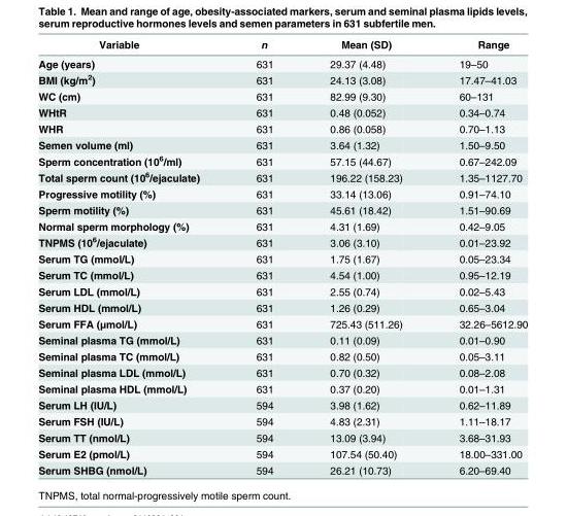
<table><thead><tr><td>Variable</td><td>n</td><td>Mean (SD)</td><td>Range</td></tr></thead><tbody><tr><td>Age (years)</td><td>631</td><td>29.37 (4.48)</td><td>19–50</td></tr><tr><td>BMI (kg/m<sup>2</sup>)</td><td>631</td><td>24.13 (3.08)</td><td>17.47–41.03</td></tr><tr><td>WC (cm)</td><td>631</td><td>82.99 (9.30)</td><td>60–131</td></tr><tr><td>WHtR</td><td>631</td><td>0.48 (0.052)</td><td>0.34–0.74</td></tr><tr><td>WHR</td><td>631</td><td>0.86 (0.058)</td><td>0.70–1.13</td></tr><tr><td>Semen volume (ml)</td><td>631</td><td>3.64 (1.32)</td><td>1.50–9.50</td></tr><tr><td>Sperm concentration (10<sup>6</sup>/ml)</td><td>631</td><td>57.15 (44.67)</td><td>0.67–242.09</td></tr><tr><td>Total sperm count (10<sup>6</sup>/ejaculate)</td><td>631</td><td>196.22 (158.23)</td><td>1.35–1127.70</td></tr><tr><td>Progressive motility (%)</td><td>631</td><td>33.14 (13.06)</td><td>0.91–74.10</td></tr><tr><td>Sperm motility (%)</td><td>631</td><td>45.61 (18.42)</td><td>1.51–90.69</td></tr><tr><td>Normal sperm morphology (%)</td><td>631</td><td>4.31 (1.69)</td><td>0.42–9.05</td></tr><tr><td>TNPMS (10<sup>6</sup>/ejaculate)</td><td>631</td><td>3.06 (3.10)</td><td>0.01–23.92</td></tr><tr><td>Serum TG (mmol/L)</td><td>631</td><td>1.75 (1.67)</td><td>0.05–23.34</td></tr><tr><td>Serum TC (mmol/L)</td><td>631</td><td>4.54 (1.00)</td><td>0.95–12.19</td></tr><tr><td>Serum LDL (mmol/L)</td><td>631</td><td>2.55 (0.74)</td><td>0.02–5.43</td></tr><tr><td>Serum HDL (mmol/L)</td><td>631</td><td>1.26 (0.29)</td><td>0.65–3.04</td></tr><tr><td>Serum FFA (μmol/L)</td><td>631</td><td>725.43 (511.26)</td><td>32.26–5612.90</td></tr><tr><td>Seminal plasma TG (mmol/L)</td><td>631</td><td>0.11 (0.09)</td><td>0.01–0.90</td></tr><tr><td>Seminal plasma TC (mmol/L)</td><td>631</td><td>0.82 (0.50)</td><td>0.05–3.11</td></tr><tr><td>Seminal plasma LDL (mmol/L)</td><td>631</td><td>0.70 (0.32)</td><td>0.08–2.08</td></tr><tr><td>Seminal plasma HDL (mmol/L)</td><td>631</td><td>0.37 (0.20)</td><td>0.01–1.31</td></tr><tr><td>Serum LH (IU/L)</td><td>594</td><td>3.98 (1.62)</td><td>0.62–11.89</td></tr><tr><td>Serum FSH (IU/L)</td><td>594</td><td>4.83 (2.31)</td><td>1.11–18.17</td></tr><tr><td>Serum TT (nmol/L)</td><td>594</td><td>13.09 (3.94)</td><td>3.68–31.93</td></tr><tr><td>Serum E2 (pmol/L)</td><td>594</td><td>107.54 (50.40)</td><td>18.00–331.00</td></tr><tr><td>Serum SHBG (nmol/L)</td><td>594</td><td>26.21 (10.73)</td><td>6.20–69.40</td></tr></tbody></table>